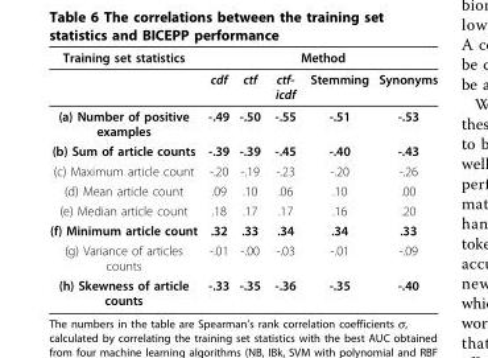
<table><thead><tr><td rowspan="2">Training set statistics</td><td colspan="5">Method</td></tr><tr><td>cdf</td><td>ctf</td><td>ctf- icdf</td><td>Stemming</td><td>Synonyms</td></tr></thead><tbody><tr><td>(a) Number of positive examples</td><td>-.49</td><td>-.50</td><td>-.55</td><td>-.51</td><td>-.53</td></tr><tr><td>(b) Sum of article counts</td><td>-.39</td><td>-.39</td><td>-.45</td><td>-.40</td><td>-.43</td></tr><tr><td>(c) Maximum article count</td><td>-.20</td><td>-.19</td><td>-.23</td><td>-.20</td><td>-.26</td></tr><tr><td>(d) Mean article count</td><td>.09</td><td>.10</td><td>.06</td><td>.10</td><td>.00</td></tr><tr><td>(e) Median article count</td><td>.18</td><td>.17</td><td>.17</td><td>.16</td><td>.20</td></tr><tr><td>(f) Minimum article count</td><td>.32</td><td>.33</td><td>.34</td><td>.34</td><td>.33</td></tr><tr><td>(g) Variance of articles counts</td><td>-.01</td><td>-.00</td><td>-.03</td><td>-.01</td><td>-.09</td></tr><tr><td>(h) Skewness of article counts</td><td>-.33</td><td>-.35</td><td>-.36</td><td>-.35</td><td>-.40</td></tr></tbody></table>